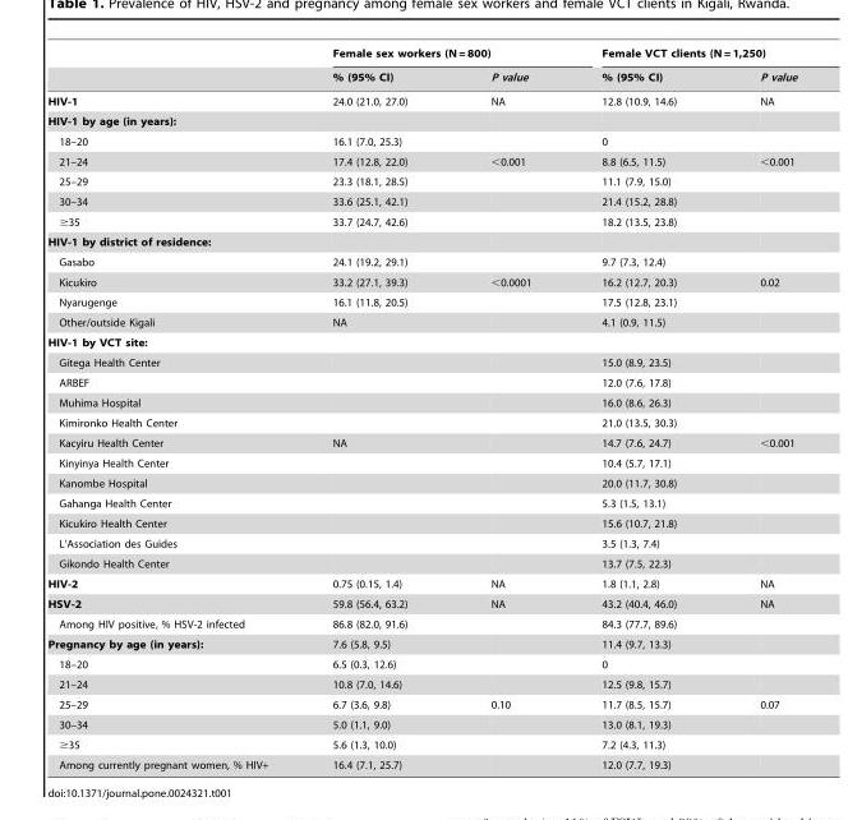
<table><thead><tr><td rowspan="2"></td><td colspan="2">Female sex workers (N = 800)</td><td colspan="2">Female VCT clients (N = 1,250)</td></tr><tr><td>% (95% CI)</td><td>P value</td><td>% (95% CI)</td><td>P value</td></tr></thead><tbody><tr><td>HIV-1</td><td>24.0 (21.0, 27.0)</td><td>NA</td><td>12.8 (10.9, 14.6)</td><td>NA</td></tr><tr><td colspan="5">HIV-1 by age (in years):</td></tr><tr><td>18–20</td><td>16.1 (7.0, 25.3)</td><td></td><td>0</td><td></td></tr><tr><td>21–24</td><td>17.4 (12.8, 22.0)</td><td>&lt;0.001</td><td>8.8 (6.5, 11.5)</td><td>&lt;0.001</td></tr><tr><td>25–29</td><td>23.3 (18.1, 28.5)</td><td></td><td>11.1 (7.9, 15.0)</td><td></td></tr><tr><td>30–34</td><td>33.6 (25.1, 42.1)</td><td></td><td>21.4 (15.2, 28.8)</td><td></td></tr><tr><td>≥35</td><td>33.7 (24.7, 42.6)</td><td></td><td>18.2 (13.5, 23.8)</td><td></td></tr><tr><td colspan="5">HIV-1 by district of residence:</td></tr><tr><td>Gasabo</td><td>24.1 (19.2, 29.1)</td><td></td><td>9.7 (7.3, 12.4)</td><td></td></tr><tr><td>Kicukiro</td><td>33.2 (27.1, 39.3)</td><td>&lt;0.0001</td><td>16.2 (12.7, 20.3)</td><td>0.02</td></tr><tr><td>Nyarugenge</td><td>16.1 (11.8, 20.5)</td><td></td><td>17.5 (12.8, 23.1)</td><td></td></tr><tr><td>Other/outside Kigali</td><td>NA</td><td></td><td>4.1 (0.9, 11.5)</td><td></td></tr><tr><td colspan="5">HIV-1 by VCT site:</td></tr><tr><td>Gitega Health Center</td><td></td><td></td><td>15.0 (8.9, 23.5)</td><td></td></tr><tr><td>ARBEF</td><td></td><td></td><td>12.0 (7.6, 17.8)</td><td></td></tr><tr><td>Muhima Hospital</td><td></td><td></td><td>16.0 (8.6, 26.3)</td><td></td></tr><tr><td>Kimironko Health Center</td><td></td><td></td><td>21.0 (13.5, 30.3)</td><td></td></tr><tr><td>Kacyiru Health Center</td><td>NA</td><td></td><td>14.7 (7.6, 24.7)</td><td>&lt;0.001</td></tr><tr><td>Kinyinya Health Center</td><td></td><td></td><td>10.4 (5.7, 17.1)</td><td></td></tr><tr><td>Kanombe Hospital</td><td></td><td></td><td>20.0 (11.7, 30.8)</td><td></td></tr><tr><td>Gahanga Health Center</td><td></td><td></td><td>5.3 (1.5, 13.1)</td><td></td></tr><tr><td>Kicukiro Health Center</td><td></td><td></td><td>15.6 (10.7, 21.8)</td><td></td></tr><tr><td>L’Association des Guides</td><td></td><td></td><td>3.5 (1.3, 7.4)</td><td></td></tr><tr><td>Gikondo Health Center</td><td></td><td></td><td>13.7 (7.5, 22.3)</td><td></td></tr><tr><td>HIV-2</td><td>0.75 (0.15, 1.4)</td><td>NA</td><td>1.8 (1.1, 2.8)</td><td>NA</td></tr><tr><td>HSV-2</td><td>59.8 (56.4, 63.2)</td><td>NA</td><td>43.2 (40.4, 46.0)</td><td>NA</td></tr><tr><td>Among HIV positive, % HSV-2 infected</td><td>86.8 (82.0, 91.6)</td><td></td><td>84.3 (77.7, 89.6)</td><td></td></tr><tr><td>Pregnancy by age (in years):</td><td>7.6 (5.8, 9.5)</td><td></td><td>11.4 (9.7, 13.3)</td><td></td></tr><tr><td>18–20</td><td>6.5 (0.3, 12.6)</td><td></td><td>0</td><td></td></tr><tr><td>21–24</td><td>10.8 (7.0, 14.6)</td><td></td><td>12.5 (9.8, 15.7)</td><td></td></tr><tr><td>25–29</td><td>6.7 (3.6, 9.8)</td><td>0.10</td><td>11.7 (8.5, 15.7)</td><td>0.07</td></tr><tr><td>30–34</td><td>5.0 (1.1, 9.0)</td><td></td><td>13.0 (8.1, 19.3)</td><td></td></tr><tr><td>≥35</td><td>5.6 (1.3, 10.0)</td><td></td><td>7.2 (4.3, 11.3)</td><td></td></tr><tr><td>Among currently pregnant women, % HIV+</td><td>16.4 (7.1, 25.7)</td><td></td><td>12.0 (7.7, 19.3)</td><td></td></tr></tbody></table>